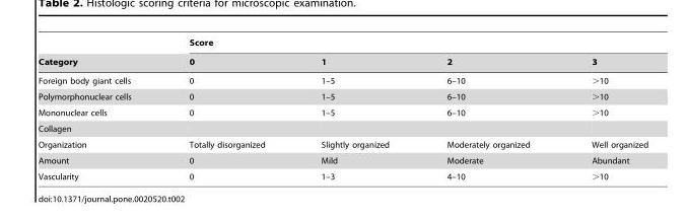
<table><thead><tr><td rowspan="2">Category</td><td colspan="4">Score</td></tr><tr><td>0</td><td>1</td><td>2</td><td>3</td></tr></thead><tbody><tr><td>Foreign body giant cells</td><td>0</td><td>1–5</td><td>6–10</td><td>&gt;10</td></tr><tr><td>Polymorphonuclear cells</td><td>0</td><td>1–5</td><td>6–10</td><td>&gt;10</td></tr><tr><td>Mononuclear cells</td><td>0</td><td>1–5</td><td>6–10</td><td>&gt;10</td></tr><tr><td colspan="5">Collagen</td></tr><tr><td>Organization</td><td>Totally disorganized</td><td>Slightly organized</td><td>Moderately organized</td><td>Well organized</td></tr><tr><td>Amount</td><td>0</td><td>Mild</td><td>Moderate</td><td>Abundant</td></tr><tr><td>Vascularity</td><td>0</td><td>1–3</td><td>4–10</td><td>&gt;10</td></tr></tbody></table>